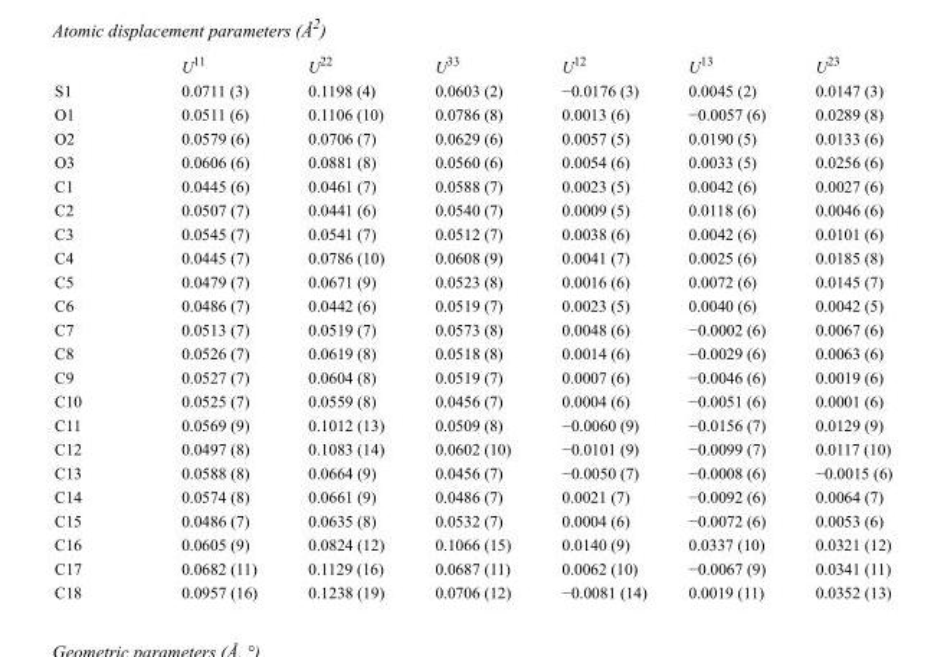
<table><thead><tr><td></td><td>U<sup>11</sup></td><td>U<sup>22</sup></td><td>U<sup>33</sup></td><td>U<sup>12</sup></td><td>U<sup>13</sup></td><td>U<sup>23</sup></td></tr></thead><tbody><tr><td>S1</td><td>0.0711 (3)</td><td>0.1198 (4)</td><td>0.0603 (2)</td><td>−0.0176 (3)</td><td>0.0045 (2)</td><td>0.0147 (3)</td></tr><tr><td>O1</td><td>0.0511 (6)</td><td>0.1106 (10)</td><td>0.0786 (8)</td><td>0.0013 (6)</td><td>−0.0057 (6)</td><td>0.0289 (8)</td></tr><tr><td>O2</td><td>0.0579 (6)</td><td>0.0706 (7)</td><td>0.0629 (6)</td><td>0.0057 (5)</td><td>0.0190 (5)</td><td>0.0133 (6)</td></tr><tr><td>O3</td><td>0.0606 (6)</td><td>0.0881 (8)</td><td>0.0560 (6)</td><td>0.0054 (6)</td><td>0.0033 (5)</td><td>0.0256 (6)</td></tr><tr><td>C1</td><td>0.0445 (6)</td><td>0.0461 (7)</td><td>0.0588 (7)</td><td>0.0023 (5)</td><td>0.0042 (6)</td><td>0.0027 (6)</td></tr><tr><td>C2</td><td>0.0507 (7)</td><td>0.0441 (6)</td><td>0.0540 (7)</td><td>0.0009 (5)</td><td>0.0118 (6)</td><td>0.0046 (6)</td></tr><tr><td>C3</td><td>0.0545 (7)</td><td>0.0541 (7)</td><td>0.0512 (7)</td><td>0.0038 (6)</td><td>0.0042 (6)</td><td>0.0101 (6)</td></tr><tr><td>C4</td><td>0.0445 (7)</td><td>0.0786 (10)</td><td>0.0608 (9)</td><td>0.0041 (7)</td><td>0.0025 (6)</td><td>0.0185 (8)</td></tr><tr><td>C5</td><td>0.0479 (7)</td><td>0.0671 (9)</td><td>0.0523 (8)</td><td>0.0016 (6)</td><td>0.0072 (6)</td><td>0.0145 (7)</td></tr><tr><td>C6</td><td>0.0486 (7)</td><td>0.0442 (6)</td><td>0.0519 (7)</td><td>0.0023 (5)</td><td>0.0040 (6)</td><td>0.0042 (5)</td></tr><tr><td>C7</td><td>0.0513 (7)</td><td>0.0519 (7)</td><td>0.0573 (8)</td><td>0.0048 (6)</td><td>−0.0002 (6)</td><td>0.0067 (6)</td></tr><tr><td>C8</td><td>0.0526 (7)</td><td>0.0619 (8)</td><td>0.0518 (8)</td><td>0.0014 (6)</td><td>−0.0029 (6)</td><td>0.0063 (6)</td></tr><tr><td>C9</td><td>0.0527 (7)</td><td>0.0604 (8)</td><td>0.0519 (7)</td><td>0.0007 (6)</td><td>−0.0046 (6)</td><td>0.0019 (6)</td></tr><tr><td>C10</td><td>0.0525 (7)</td><td>0.0559 (8)</td><td>0.0456 (7)</td><td>0.0004 (6)</td><td>−0.0051 (6)</td><td>0.0001 (6)</td></tr><tr><td>C11</td><td>0.0569 (9)</td><td>0.1012 (13)</td><td>0.0509 (8)</td><td>−0.0060 (9)</td><td>−0.0156 (7)</td><td>0.0129 (9)</td></tr><tr><td>C12</td><td>0.0497 (8)</td><td>0.1083 (14)</td><td>0.0602 (10)</td><td>−0.0101 (9)</td><td>−0.0099 (7)</td><td>0.0117 (10)</td></tr><tr><td>C13</td><td>0.0588 (8)</td><td>0.0664 (9)</td><td>0.0456 (7)</td><td>−0.0050 (7)</td><td>−0.0008 (6)</td><td>−0.0015 (6)</td></tr><tr><td>C14</td><td>0.0574 (8)</td><td>0.0661 (9)</td><td>0.0486 (7)</td><td>0.0021 (7)</td><td>−0.0092 (6)</td><td>0.0064 (7)</td></tr><tr><td>C15</td><td>0.0486 (7)</td><td>0.0635 (8)</td><td>0.0532 (7)</td><td>0.0004 (6)</td><td>−0.0072 (6)</td><td>0.0053 (6)</td></tr><tr><td>C16</td><td>0.0605 (9)</td><td>0.0824 (12)</td><td>0.1066 (15)</td><td>0.0140 (9)</td><td>0.0337 (10)</td><td>0.0321 (12)</td></tr><tr><td>C17</td><td>0.0682 (11)</td><td>0.1129 (16)</td><td>0.0687 (11)</td><td>0.0062 (10)</td><td>−0.0067 (9)</td><td>0.0341 (11)</td></tr><tr><td>C18</td><td>0.0957 (16)</td><td>0.1238 (19)</td><td>0.0706 (12)</td><td>−0.0081 (14)</td><td>0.0019 (11)</td><td>0.0352 (13)</td></tr></tbody></table>